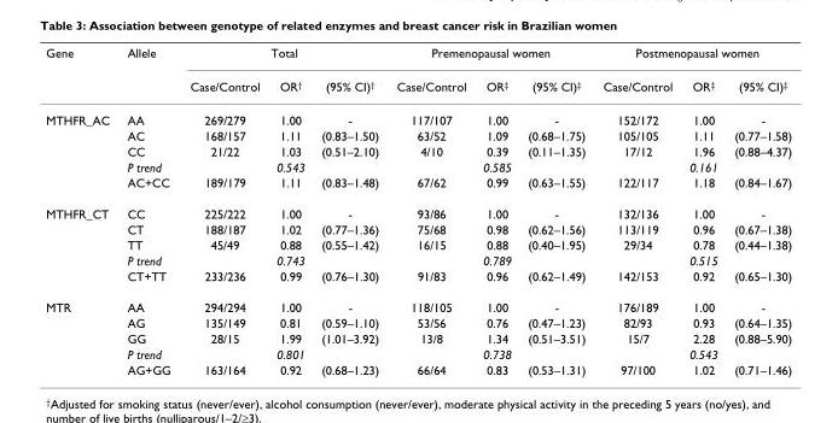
<table><thead><tr><td rowspan="2">Gene</td><td rowspan="2">Allele</td><td colspan="3">Total</td><td colspan="3">Premenopausal women</td><td colspan="3">Postmenopausal women</td></tr><tr><td>Case/Control</td><td>OR<sup>†</sup></td><td>(95% CI)<sup>†</sup></td><td>Case/Control</td><td>OR<sup>‡</sup></td><td>(95% CI)<sup>‡</sup></td><td>Case/Control</td><td>OR<sup>‡</sup></td><td>(95% CI)<sup>‡</sup></td></tr></thead><tbody><tr><td rowspan="5">MTHFR_AC</td><td>AA</td><td>269/279</td><td>1.00</td><td>-</td><td>117/107</td><td>1.00</td><td>-</td><td>152/172</td><td>1.00</td><td>-</td></tr><tr><td>AC</td><td>168/157</td><td>1.11</td><td>(0.83–1.50)</td><td>63/52</td><td>1.09</td><td>(0.68–1.75)</td><td>105/105</td><td>1.11</td><td>(0.77–1.58)</td></tr><tr><td>CC</td><td>21/22</td><td>1.03</td><td>(0.51–2.10)</td><td>4/10</td><td>0.39</td><td>(0.11–1.35)</td><td>17/12</td><td>1.96</td><td>(0.88–4.37)</td></tr><tr><td>P trend</td><td></td><td>0.543</td><td></td><td></td><td>0.585</td><td></td><td></td><td>0.161</td><td></td></tr><tr><td>AC+CC</td><td>189/179</td><td>1.11</td><td>(0.83–1.48)</td><td>67/62</td><td>0.99</td><td>(0.63–1.55)</td><td>122/117</td><td>1.18</td><td>(0.84–1.67)</td></tr><tr><td rowspan="5">MTHFR_CT</td><td>CC</td><td>225/222</td><td>1.00</td><td>-</td><td>93/86</td><td>1.00</td><td>-</td><td>132/136</td><td>1.00</td><td>-</td></tr><tr><td>CT</td><td>188/187</td><td>1.02</td><td>(0.77–1.36)</td><td>75/68</td><td>0.98</td><td>(0.62–1.56)</td><td>113/119</td><td>0.96</td><td>(0.67–1.38)</td></tr><tr><td>TT</td><td>45/49</td><td>0.88</td><td>(0.55–1.42)</td><td>16/15</td><td>0.88</td><td>(0.40–1.95)</td><td>29/34</td><td>0.78</td><td>(0.44–1.38)</td></tr><tr><td>P trend</td><td></td><td>0.743</td><td></td><td></td><td>0.789</td><td></td><td></td><td>0.515</td><td></td></tr><tr><td>CT+TT</td><td>233/236</td><td>0.99</td><td>(0.76–1.30)</td><td>91/83</td><td>0.96</td><td>(0.62–1.49)</td><td>142/153</td><td>0.92</td><td>(0.65–1.30)</td></tr><tr><td rowspan="5">MTR</td><td>AA</td><td>294/294</td><td>1.00</td><td>-</td><td>118/105</td><td>1.00</td><td>-</td><td>176/189</td><td>1.00</td><td>-</td></tr><tr><td>AG</td><td>135/149</td><td>0.81</td><td>(0.59–1.10)</td><td>53/56</td><td>0.76</td><td>(0.47–1.23)</td><td>82/93</td><td>0.93</td><td>(0.64–1.35)</td></tr><tr><td>GG</td><td>28/15</td><td>1.99</td><td>(1.01–3.92)</td><td>13/8</td><td>1.34</td><td>(0.51–3.51)</td><td>15/7</td><td>2.28</td><td>(0.88–5.90)</td></tr><tr><td>P trend</td><td></td><td>0.801</td><td></td><td></td><td>0.738</td><td></td><td></td><td>0.543</td><td></td></tr><tr><td>AG+GG</td><td>163/164</td><td>0.92</td><td>(0.68–1.23)</td><td>66/64</td><td>0.83</td><td>(0.53–1.31)</td><td>97/100</td><td>1.02</td><td>(0.71–1.46)</td></tr></tbody></table>